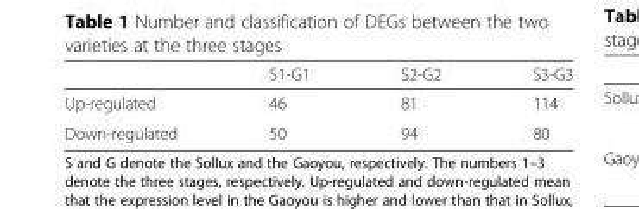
<table><thead><tr><td></td><td>S1-G1</td><td>S2-G2</td><td>S3-G3</td></tr></thead><tbody><tr><td>Up-regulated</td><td>46</td><td>81</td><td>114</td></tr><tr><td>Down-regulated</td><td>50</td><td>94</td><td>80</td></tr></tbody></table>